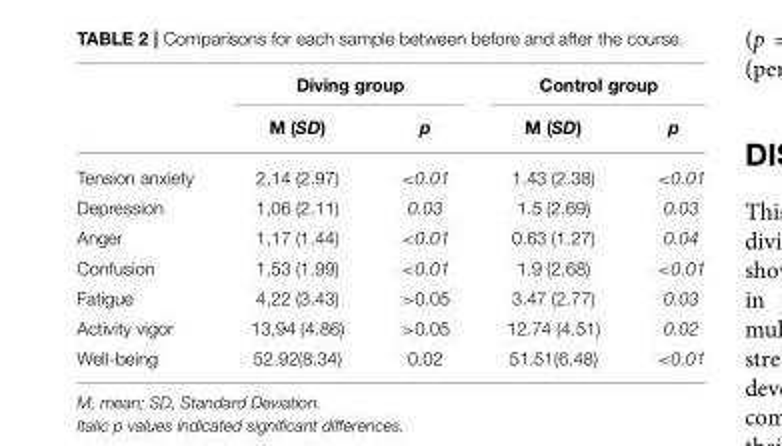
<table><thead><tr><td rowspan="2"></td><td colspan="2">Diving group</td><td colspan="2">Control group</td></tr><tr><td>M (SD)</td><td>p</td><td>M (SD)</td><td>p</td></tr></thead><tbody><tr><td>Tension anxiety</td><td>2,14 (2.97)</td><td>&lt;0.01</td><td>1.43 (2.38)</td><td>&lt;0.01</td></tr><tr><td>Depression</td><td>1,06 (2.11)</td><td>0.03</td><td>1.5 (2.69)</td><td>0.03</td></tr><tr><td>Anger</td><td>1,17 (1.44)</td><td>&lt;0.01</td><td>0.63 (1.27)</td><td>0.04</td></tr><tr><td>Confusion</td><td>1,53 (1.99)</td><td>&lt;0.01</td><td>1.9 (2.68)</td><td>&lt;0.01</td></tr><tr><td>Fatigue</td><td>4,22 (3.43)</td><td>&gt;0.05</td><td>3.47 (2.77)</td><td>0.03</td></tr><tr><td>Activity vigor</td><td>13,94 (4.86)</td><td>&gt;0.05</td><td>12.74 (4.51)</td><td>0.02</td></tr><tr><td>Well-being</td><td>52.92(8.34)</td><td>0.02</td><td>51.51(6.48)</td><td>&lt;0.01</td></tr></tbody></table>